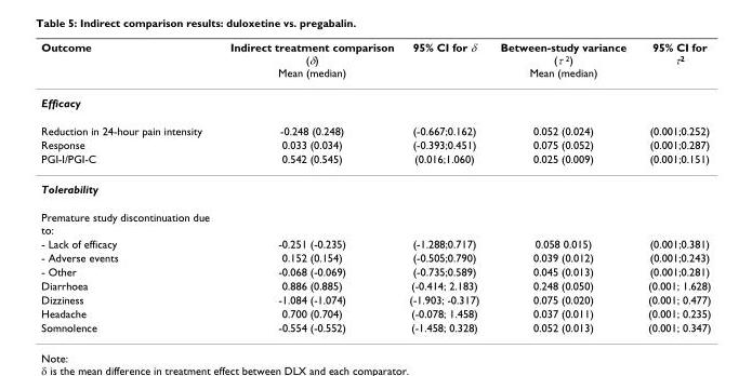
<table><thead><tr><td>Outcome</td><td>Indirect treatment comparison (δ) Mean (median)</td><td>95% CI for δ</td><td>Between-study variance (τ <sup>2</sup>) Mean (median)</td><td>95% CI for τ<sup>2</sup></td></tr></thead><tbody><tr><td colspan="5">Efficacy</td></tr><tr><td>Reduction in 24-hour pain intensity</td><td>-0.248 (0.248)</td><td>(-0.667;0.162)</td><td>0.052 (0.024)</td><td>(0.001;0.252)</td></tr><tr><td>Response</td><td>0.033 (0.034)</td><td>(-0.393;0.451)</td><td>0.075 (0.052)</td><td>(0.001;0.287)</td></tr><tr><td>PGI-I/PGI-C</td><td>0.542 (0.545)</td><td>(0.016;1.060)</td><td>0.025 (0.009)</td><td>(0.001;0.151)</td></tr><tr><td colspan="5">Tolerability</td></tr><tr><td colspan="5">Premature study discontinuation due to:</td></tr><tr><td>- Lack of efficacy</td><td>-0.251 (-0.235)</td><td>(-1.288;0.717)</td><td>0.058 0.015)</td><td>(0.001;0.381)</td></tr><tr><td>- Adverse events</td><td>0.152 (0.154)</td><td>(-0.505;0.790)</td><td>0.039 (0.012)</td><td>(0.001;0.243)</td></tr><tr><td>- Other</td><td>-0.068 (-0.069)</td><td>(-0.735;0.589)</td><td>0.045 (0.013)</td><td>(0.001;0.281)</td></tr><tr><td>Diarrhoea</td><td>0.886 (0.885)</td><td>(-0.414; 2.183)</td><td>0.248 (0.050)</td><td>(0.001; 1.628)</td></tr><tr><td>Dizziness</td><td>-1.084 (-1.074)</td><td>(-1.903; -0.317)</td><td>0.075 (0.020)</td><td>(0.001; 0.477)</td></tr><tr><td>Headache</td><td>0.700 (0.704)</td><td>(-0.078; 1.458)</td><td>0.037 (0.011)</td><td>(0.001; 0.235)</td></tr><tr><td>Somnolence</td><td>-0.554 (-0.552)</td><td>(-1.458; 0.328)</td><td>0.052 (0.013)</td><td>(0.001; 0.347)</td></tr></tbody></table>